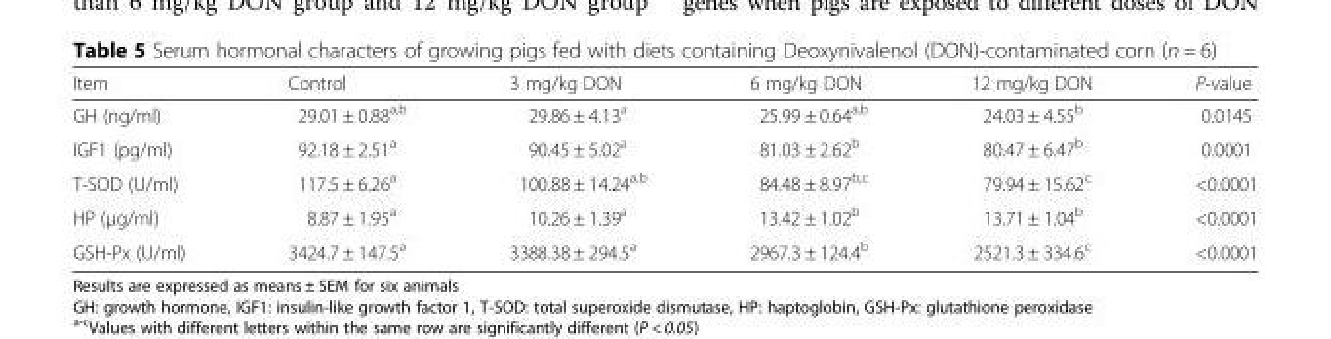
<table><thead><tr><td>Item</td><td>Control</td><td>3 mg/kg DON</td><td>6 mg/kg DON</td><td>12 mg/kg DON</td><td>P-value</td></tr></thead><tbody><tr><td>GH (ng/ml)</td><td>29.01 ± 0.88<sup>a,b</sup></td><td>29.86 ± 4.13<sup>a</sup></td><td>25.99 ± 0.64<sup>a,b</sup></td><td>24.03 ± 4.55<sup>b</sup></td><td>0.0145</td></tr><tr><td>IGF1 (pg/ml)</td><td>92.18 ± 2.51<sup>a</sup></td><td>90.45 ± 5.02<sup>a</sup></td><td>81.03 ± 2.62<sup>b</sup></td><td>80.47 ± 6.47<sup>b</sup></td><td>0.0001</td></tr><tr><td>T-SOD (U/ml)</td><td>117.5 ± 6.26<sup>a</sup></td><td>100.88 ± 14.24<sup>a,b</sup></td><td>84.48 ± 8.97<sup>b,c</sup></td><td>79.94 ± 15.62<sup>c</sup></td><td>&lt;0.0001</td></tr><tr><td>HP (μg/ml)</td><td>8.87 ± 1.95<sup>a</sup></td><td>10.26 ± 1.39<sup>a</sup></td><td>13.42 ± 1.02<sup>b</sup></td><td>13.71 ± 1.04<sup>b</sup></td><td>&lt;0.0001</td></tr><tr><td>GSH-Px (U/ml)</td><td>3424.7 ± 147.5<sup>a</sup></td><td>3388.38 ± 294.5<sup>a</sup></td><td>2967.3 ± 124.4<sup>b</sup></td><td>2521.3 ± 334.6<sup>c</sup></td><td>&lt;0.0001</td></tr></tbody></table>